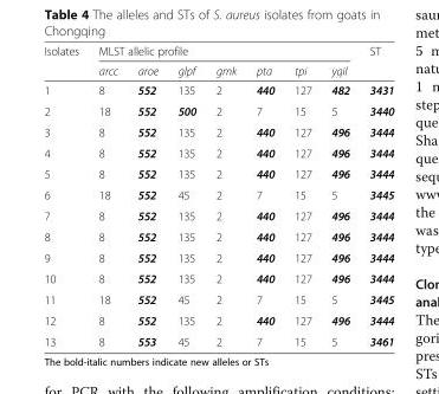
<table><thead><tr><td rowspan="2">Isolates</td><td colspan="7">MLST allelic profile</td><td rowspan="2">ST</td></tr><tr><td>arcc</td><td>aroe</td><td>glpf</td><td>gmk</td><td>pta</td><td>tpi</td><td>yqil</td></tr></thead><tbody><tr><td>1</td><td>8</td><td>552</td><td>135</td><td>2</td><td>440</td><td>127</td><td>482</td><td>3431</td></tr><tr><td>2</td><td>18</td><td>552</td><td>500</td><td>2</td><td>7</td><td>15</td><td>5</td><td>3440</td></tr><tr><td>3</td><td>8</td><td>552</td><td>135</td><td>2</td><td>440</td><td>127</td><td>496</td><td>3444</td></tr><tr><td>4</td><td>8</td><td>552</td><td>135</td><td>2</td><td>440</td><td>127</td><td>496</td><td>3444</td></tr><tr><td>5</td><td>8</td><td>552</td><td>135</td><td>2</td><td>440</td><td>127</td><td>496</td><td>3444</td></tr><tr><td>6</td><td>18</td><td>552</td><td>45</td><td>2</td><td>7</td><td>15</td><td>5</td><td>3445</td></tr><tr><td>7</td><td>8</td><td>552</td><td>135</td><td>2</td><td>440</td><td>127</td><td>496</td><td>3444</td></tr><tr><td>8</td><td>8</td><td>552</td><td>135</td><td>2</td><td>440</td><td>127</td><td>496</td><td>3444</td></tr><tr><td>9</td><td>8</td><td>552</td><td>135</td><td>2</td><td>440</td><td>127</td><td>496</td><td>3444</td></tr><tr><td>10</td><td>8</td><td>552</td><td>135</td><td>2</td><td>440</td><td>127</td><td>496</td><td>3444</td></tr><tr><td>11</td><td>18</td><td>552</td><td>45</td><td>2</td><td>7</td><td>15</td><td>5</td><td>3445</td></tr><tr><td>12</td><td>8</td><td>552</td><td>135</td><td>2</td><td>440</td><td>127</td><td>496</td><td>3444</td></tr><tr><td>13</td><td>8</td><td>553</td><td>45</td><td>2</td><td>7</td><td>15</td><td>5</td><td>3461</td></tr></tbody></table>